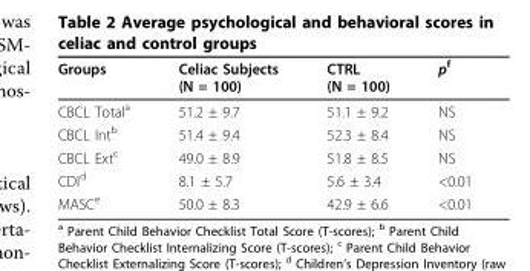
<table><thead><tr><td>Groups</td><td>Celiac Subjects (N = 100)</td><td>CTRL (N = 100)</td><td>p<sup>f</sup></td></tr></thead><tbody><tr><td>CBCL Total<sup>a</sup></td><td>51.2 ± 9.7</td><td>51.1 ± 9.2</td><td>NS</td></tr><tr><td>CBCL Int<sup>b</sup></td><td>51.4 ± 9.4</td><td>52.3 ± 8.4</td><td>NS</td></tr><tr><td>CBCL Ext<sup>c</sup></td><td>49.0 ± 8.9</td><td>51.8 ± 8.5</td><td>NS</td></tr><tr><td>CDI<sup>d</sup></td><td>8.1 ± 5.7</td><td>5.6 ± 3.4</td><td>&lt;0.01</td></tr><tr><td>MASC<sup>e</sup></td><td>50.0 ± 8.3</td><td>42.9 ± 6.6</td><td>&lt;0.01</td></tr></tbody></table>